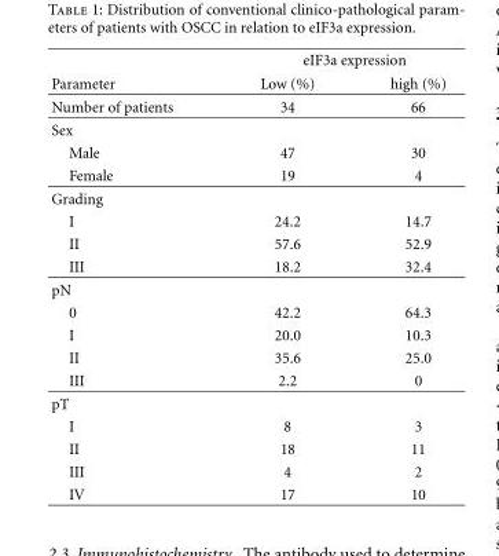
<table><thead><tr><td rowspan="3">Parameter Number of patients</td><td colspan="2">eIF3a expression</td></tr><tr><td rowspan="2">Low (%) 34</td><td rowspan="2">high (%) 66</td></tr><tr></tr></thead><tbody><tr><td colspan="3">Sex</td></tr><tr><td>Male</td><td>47</td><td>30</td></tr><tr><td>Female</td><td>19</td><td>4</td></tr><tr><td colspan="3">Grading</td></tr><tr><td>I</td><td>24.2</td><td>14.7</td></tr><tr><td>II</td><td>57.6</td><td>52.9</td></tr><tr><td>III</td><td>18.2</td><td>32.4</td></tr><tr><td colspan="3">pN</td></tr><tr><td>0</td><td>42.2</td><td>64.3</td></tr><tr><td>I</td><td>20.0</td><td>10.3</td></tr><tr><td>II</td><td>35.6</td><td>25.0</td></tr><tr><td>III</td><td>2.2</td><td>0</td></tr><tr><td colspan="3">pT</td></tr><tr><td>I</td><td>8</td><td>3</td></tr><tr><td>II</td><td>18</td><td>11</td></tr><tr><td>III</td><td>4</td><td>2</td></tr><tr><td>IV</td><td>17</td><td>10</td></tr></tbody></table>